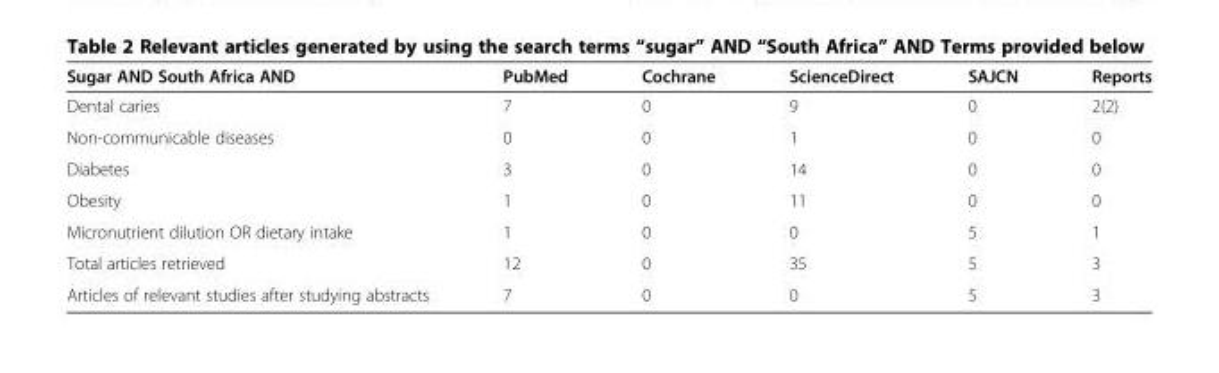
<table><thead><tr><td>Sugar AND South Africa AND</td><td>PubMed</td><td>Cochrane</td><td>ScienceDirect</td><td>SAJCN</td><td>Reports</td></tr></thead><tbody><tr><td>Dental caries</td><td>7</td><td>0</td><td>9</td><td>0</td><td>2(2)</td></tr><tr><td>Non-communicable diseases</td><td>0</td><td>0</td><td>1</td><td>0</td><td>0</td></tr><tr><td>Diabetes</td><td>3</td><td>0</td><td>14</td><td>0</td><td>0</td></tr><tr><td>Obesity</td><td>1</td><td>0</td><td>11</td><td>0</td><td>0</td></tr><tr><td>Micronutrient dilution OR dietary intake</td><td>1</td><td>0</td><td>0</td><td>5</td><td>1</td></tr><tr><td>Total articles retrieved</td><td>12</td><td>0</td><td>35</td><td>5</td><td>3</td></tr><tr><td>Articles of relevant studies after studying abstracts</td><td>7</td><td>0</td><td>0</td><td>5</td><td>3</td></tr></tbody></table>